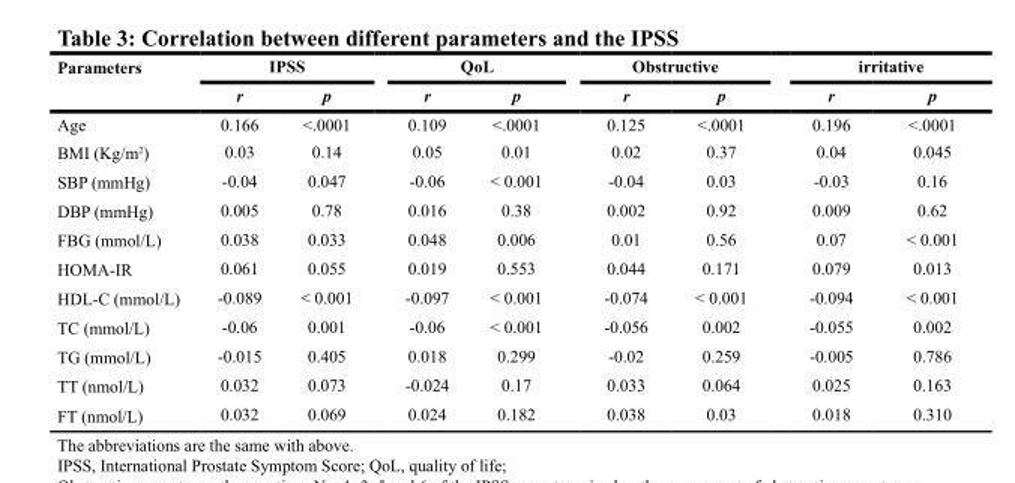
<table><thead><tr><td rowspan="2">Parameters</td><td colspan="2">IPSS</td><td colspan="2">QoL</td><td colspan="2">Obstructive</td><td colspan="2">irritative</td></tr><tr><td>r</td><td>p</td><td>r</td><td>p</td><td>r</td><td>p</td><td>r</td><td>p</td></tr></thead><tbody><tr><td>Age</td><td>0.166</td><td>&lt;.0001</td><td>0.109</td><td>&lt;.0001</td><td>0.125</td><td>&lt;.0001</td><td>0.196</td><td>&lt;.0001</td></tr><tr><td>BMI (Kg/m<sup>2</sup>)</td><td>0.03</td><td>0.14</td><td>0.05</td><td>0.01</td><td>0.02</td><td>0.37</td><td>0.04</td><td>0.045</td></tr><tr><td>SBP (mmHg)</td><td>-0.04</td><td>0.047</td><td>-0.06</td><td>&lt; 0.001</td><td>-0.04</td><td>0.03</td><td>-0.03</td><td>0.16</td></tr><tr><td>DBP (mmHg)</td><td>0.005</td><td>0.78</td><td>0.016</td><td>0.38</td><td>0.002</td><td>0.92</td><td>0.009</td><td>0.62</td></tr><tr><td>FBG (mmol/L)</td><td>0.038</td><td>0.033</td><td>0.048</td><td>0.006</td><td>0.01</td><td>0.56</td><td>0.07</td><td>&lt; 0.001</td></tr><tr><td>HOMA-IR</td><td>0.061</td><td>0.055</td><td>0.019</td><td>0.553</td><td>0.044</td><td>0.171</td><td>0.079</td><td>0.013</td></tr><tr><td>HDL-C (mmol/L)</td><td>-0.089</td><td>&lt; 0.001</td><td>-0.097</td><td>&lt; 0.001</td><td>-0.074</td><td>&lt; 0.001</td><td>-0.094</td><td>&lt; 0.001</td></tr><tr><td>TC (mmol/L)</td><td>-0.06</td><td>0.001</td><td>-0.06</td><td>&lt; 0.001</td><td>-0.056</td><td>0.002</td><td>-0.055</td><td>0.002</td></tr><tr><td>TG (mmol/L)</td><td>-0.015</td><td>0.405</td><td>0.018</td><td>0.299</td><td>-0.02</td><td>0.259</td><td>-0.005</td><td>0.786</td></tr><tr><td>TT (nmol/L)</td><td>0.032</td><td>0.073</td><td>-0.024</td><td>0.17</td><td>0.033</td><td>0.064</td><td>0.025</td><td>0.163</td></tr><tr><td>FT (nmol/L)</td><td>0.032</td><td>0.069</td><td>0.024</td><td>0.182</td><td>0.038</td><td>0.03</td><td>0.018</td><td>0.310</td></tr></tbody></table>